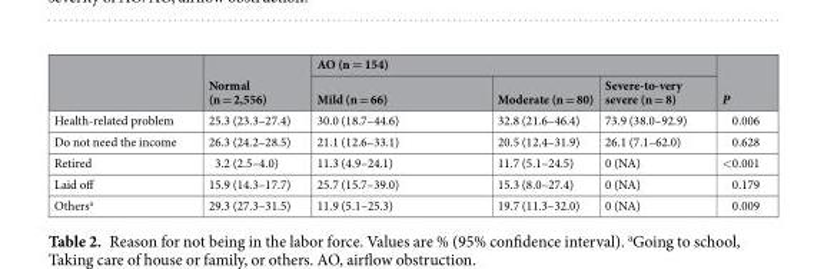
<table><thead><tr><td rowspan="2"></td><td rowspan="2">Normal (n = 2,556)</td><td colspan="3">AO (n = 154)</td><td rowspan="2">P</td></tr><tr><td>Mild (n = 66)</td><td>Moderate (n = 80)</td><td>Severe-to-very severe (n = 8)</td></tr></thead><tbody><tr><td>Health-related problem</td><td>25.3 (23.3–27.4)</td><td>30.0 (18.7–44.6)</td><td>32.8 (21.6–46.4)</td><td>73.9 (38.0–92.9)</td><td>0.006</td></tr><tr><td>Do not need the income</td><td>26.3 (24.2–28.5)</td><td>21.1 (12.6–33.1)</td><td>20.5 (12.4–31.9)</td><td>26.1 (7.1–62.0)</td><td>0.628</td></tr><tr><td>Retired</td><td>3.2 (2.5–4.0)</td><td>11.3 (4.9–24.1)</td><td>11.7 (5.1–24.5)</td><td>0 (NA)</td><td>&lt;0.001</td></tr><tr><td>Laid off</td><td>15.9 (14.3–17.7)</td><td>25.7 (15.7–39.0)</td><td>15.3 (8.0–27.4)</td><td>0 (NA)</td><td>0.179</td></tr><tr><td>Others<sup>a</sup></td><td>29.3 (27.3–31.5)</td><td>11.9 (5.1–25.3)</td><td>19.7 (11.3–32.0)</td><td>0 (NA)</td><td>0.009</td></tr></tbody></table>